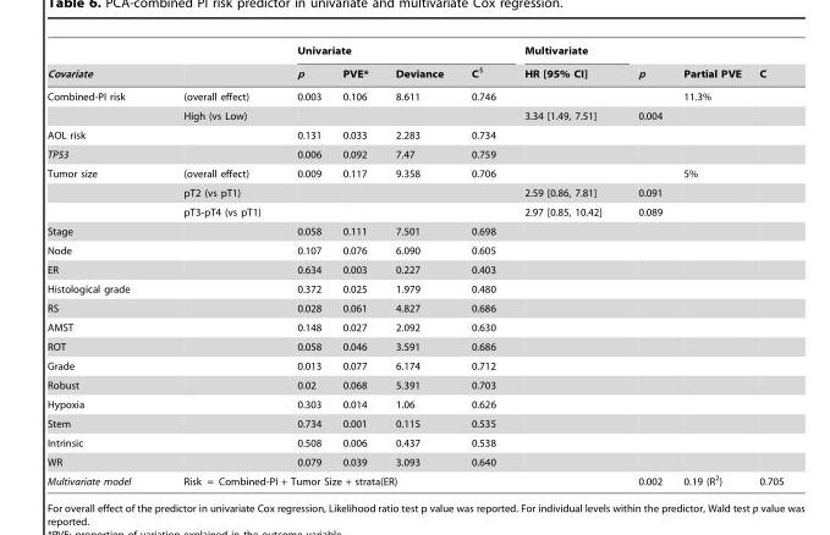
<table><thead><tr><td rowspan="2">Covariate</td><td rowspan="2"></td><td colspan="4">Univariate</td><td rowspan="2">Multivariate HR [95% CI]</td><td rowspan="2">p</td><td rowspan="2">Partial PVE</td><td rowspan="2">C</td></tr><tr><td>p</td><td>PVE*</td><td>Deviance</td><td>C§</td></tr></thead><tbody><tr><td rowspan="2">Combined-PI risk</td><td>(overall effect)</td><td>0.003</td><td>0.106</td><td>8.611</td><td>0.746</td><td></td><td></td><td>11.3%</td><td></td></tr><tr><td>High (vs Low)</td><td></td><td></td><td></td><td></td><td>3.34 [1.49, 7.51]</td><td>0.004</td><td></td><td></td></tr><tr><td>AOL risk</td><td></td><td>0.131</td><td>0.033</td><td>2.283</td><td>0.734</td><td></td><td></td><td></td><td></td></tr><tr><td>TP53</td><td></td><td>0.006</td><td>0.092</td><td>7.47</td><td>0.759</td><td></td><td></td><td></td><td></td></tr><tr><td rowspan="3">Tumor size</td><td>(overall effect)</td><td>0.009</td><td>0.117</td><td>9.358</td><td>0.706</td><td></td><td></td><td>5%</td><td></td></tr><tr><td>pT2 (vs pT1)</td><td></td><td></td><td></td><td></td><td>2.59 [0.86, 7.81]</td><td>0.091</td><td></td><td></td></tr><tr><td>pT3-pT4 (vs pT1)</td><td></td><td></td><td></td><td></td><td>2.97 [0.85, 10.42]</td><td>0.089</td><td></td><td></td></tr><tr><td>Stage</td><td></td><td>0.058</td><td>0.111</td><td>7.501</td><td>0.698</td><td></td><td></td><td></td><td></td></tr><tr><td>Node</td><td></td><td>0.107</td><td>0.076</td><td>6.090</td><td>0.605</td><td></td><td></td><td></td><td></td></tr><tr><td>ER</td><td></td><td>0.634</td><td>0.003</td><td>0.227</td><td>0.403</td><td></td><td></td><td></td><td></td></tr><tr><td>Histological grade</td><td></td><td>0.372</td><td>0.025</td><td>1.979</td><td>0.480</td><td></td><td></td><td></td><td></td></tr><tr><td>RS</td><td></td><td>0.028</td><td>0.061</td><td>4.827</td><td>0.686</td><td></td><td></td><td></td><td></td></tr><tr><td>AMST</td><td></td><td>0.148</td><td>0.027</td><td>2.092</td><td>0.630</td><td></td><td></td><td></td><td></td></tr><tr><td>ROT</td><td></td><td>0.058</td><td>0.046</td><td>3.591</td><td>0.686</td><td></td><td></td><td></td><td></td></tr><tr><td>Grade</td><td></td><td>0.013</td><td>0.077</td><td>6.174</td><td>0.712</td><td></td><td></td><td></td><td></td></tr><tr><td>Robust</td><td></td><td>0.02</td><td>0.068</td><td>5.391</td><td>0.703</td><td></td><td></td><td></td><td></td></tr><tr><td>Hypoxia</td><td></td><td>0.303</td><td>0.014</td><td>1.06</td><td>0.626</td><td></td><td></td><td></td><td></td></tr><tr><td>Stem</td><td></td><td>0.734</td><td>0.001</td><td>0.115</td><td>0.535</td><td></td><td></td><td></td><td></td></tr><tr><td>Intrinsic</td><td></td><td>0.508</td><td>0.006</td><td>0.437</td><td>0.538</td><td></td><td></td><td></td><td></td></tr><tr><td>WR</td><td></td><td>0.079</td><td>0.039</td><td>3.093</td><td>0.640</td><td></td><td></td><td></td><td></td></tr><tr><td>Multivariate model</td><td colspan="5">Risk = Combined-PI + Tumor Size + strata(ER)</td><td></td><td>0.002</td><td>0.19 (R<sup>2</sup>)</td><td>0.705</td></tr></tbody></table>